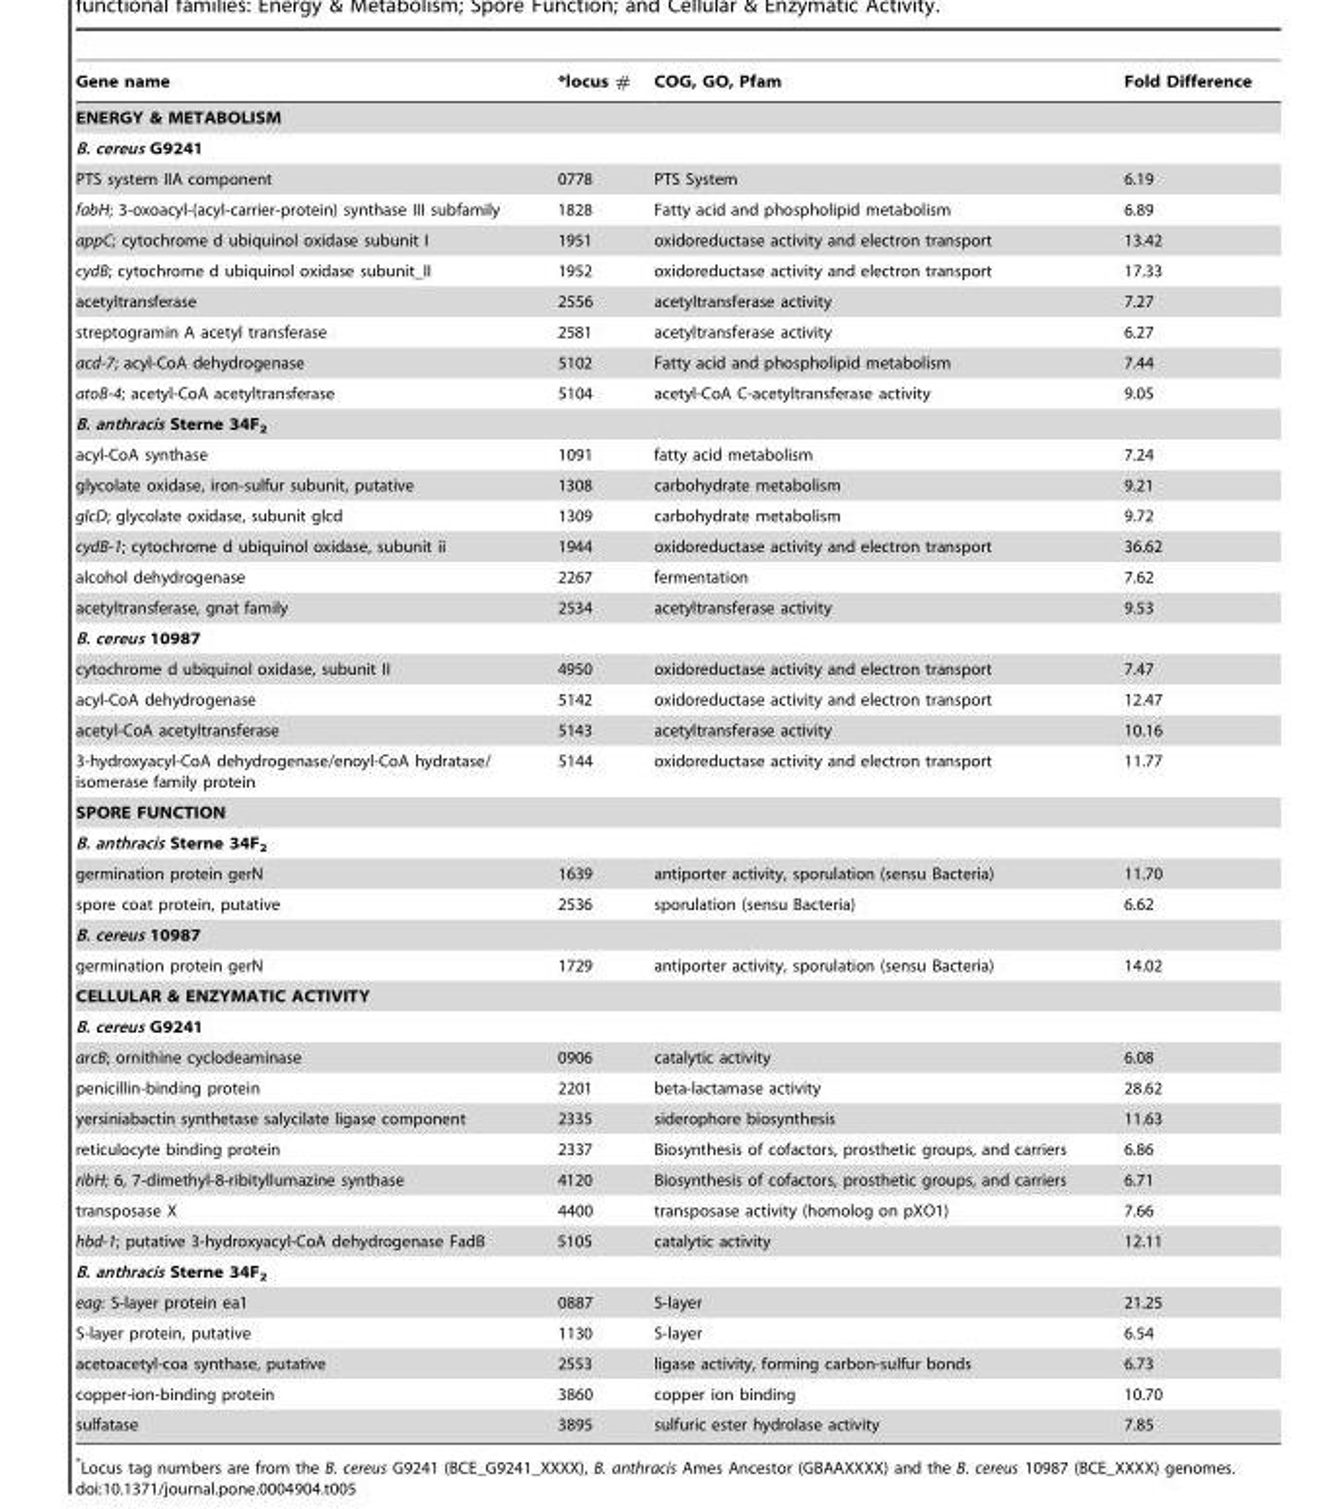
<table><thead><tr><td>Gene name</td><td>*locus #</td><td>COG, GO, Pfam</td><td>Fold Difference</td></tr></thead><tbody><tr><td colspan="4">ENERGY &amp; METABOLISM</td></tr><tr><td colspan="4">B. cereus G9241</td></tr><tr><td>PTS system IIA component</td><td>0778</td><td>PTS System</td><td>6.19</td></tr><tr><td>fabH; 3-oxoacyl-(acyl-carrier-protein) synthase III subfamily</td><td>1828</td><td>Fatty acid and phospholipid metabolism</td><td>6.89</td></tr><tr><td>appC; cytochrome d ubiquinol oxidase subunit I</td><td>1951</td><td>oxidoreductase activity and electron transport</td><td>13.42</td></tr><tr><td>cydB; cytochrome d ubiquinol oxidase subunit_II</td><td>1952</td><td>oxidoreductase activity and electron transport</td><td>17.33</td></tr><tr><td>acetyltransferase</td><td>2556</td><td>acetyltransferase activity</td><td>7.27</td></tr><tr><td>streptogramin A acetyl transferase</td><td>2581</td><td>acetyltransferase activity</td><td>6.27</td></tr><tr><td>acd-7; acyl-CoA dehydrogenase</td><td>5102</td><td>Fatty acid and phospholipid metabolism</td><td>7.44</td></tr><tr><td>atoB-4; acetyl-CoA acetyltransferase</td><td>5104</td><td>acetyl-CoA C-acetyltransferase activity</td><td>9.05</td></tr><tr><td colspan="4">B. anthracis Sterne 34F<sub>2</sub></td></tr><tr><td>acyl-CoA synthase</td><td>1091</td><td>fatty acid metabolism</td><td>7.24</td></tr><tr><td>glycolate oxidase, iron-sulfur subunit, putative</td><td>1308</td><td>carbohydrate metabolism</td><td>9.21</td></tr><tr><td>glcD; glycolate oxidase, subunit glcd</td><td>1309</td><td>carbohydrate metabolism</td><td>9.72</td></tr><tr><td>cydB-1; cytochrome d ubiquinol oxidase, subunit ii</td><td>1944</td><td>oxidoreductase activity and electron transport</td><td>36.62</td></tr><tr><td>alcohol dehydrogenase</td><td>2267</td><td>fermentation</td><td>7.62</td></tr><tr><td>acetyltransferase, gnat family</td><td>2534</td><td>acetyltransferase activity</td><td>9.53</td></tr><tr><td colspan="4">B. cereus 10987</td></tr><tr><td>cytochrome d ubiquinol oxidase, subunit II</td><td>4950</td><td>oxidoreductase activity and electron transport</td><td>7.47</td></tr><tr><td>acyl-CoA dehydrogenase</td><td>5142</td><td>oxidoreductase activity and electron transport</td><td>12.47</td></tr><tr><td>acetyl-CoA acetyltransferase</td><td>5143</td><td>acetyltransferase activity</td><td>10.16</td></tr><tr><td>3-hydroxyacyl-CoA dehydrogenase/enoyl-CoA hydratase/ isomerase family protein</td><td>5144</td><td>oxidoreductase activity and electron transport</td><td>11.77</td></tr><tr><td colspan="4">SPORE FUNCTION</td></tr><tr><td colspan="4">B. anthracis Sterne 34F<sub>2</sub></td></tr><tr><td>germination protein gerN</td><td>1639</td><td>antiporter activity, sporulation (sensu Bacteria)</td><td>11.70</td></tr><tr><td>spore coat protein, putative</td><td>2536</td><td>sporulation (sensu Bacteria)</td><td>6.62</td></tr><tr><td colspan="4">B. cereus 10987</td></tr><tr><td>germination protein gerN</td><td>1729</td><td>antiporter activity, sporulation (sensu Bacteria)</td><td>14.02</td></tr><tr><td colspan="4">CELLULAR &amp; ENZYMATIC ACTIVITY</td></tr><tr><td colspan="4">B. cereus G9241</td></tr><tr><td>arcB; ornithine cyclodeaminase</td><td>0906</td><td>catalytic activity</td><td>6.08</td></tr><tr><td>penicillin-binding protein</td><td>2201</td><td>beta-lactamase activity</td><td>28.62</td></tr><tr><td>yersiniabactin synthetase salycilate ligase component</td><td>2335</td><td>siderophore biosynthesis</td><td>11.63</td></tr><tr><td>reticulocyte binding protein</td><td>2337</td><td>Biosynthesis of cofactors, prosthetic groups, and carriers</td><td>6.86</td></tr><tr><td>ribH; 6, 7-dimethyl-8-ribityllumazine synthase</td><td>4120</td><td>Biosynthesis of cofactors, prosthetic groups, and carriers</td><td>6.71</td></tr><tr><td>transposase X</td><td>4400</td><td>transposase activity (homolog on pXO1)</td><td>7.66</td></tr><tr><td>hbd-1; putative 3-hydroxyacyl-CoA dehydrogenase FadB</td><td>5105</td><td>catalytic activity</td><td>12.11</td></tr><tr><td colspan="4">B. anthracis Sterne 34F<sub>2</sub></td></tr><tr><td>eag: S-layer protein ea1</td><td>0887</td><td>S-layer</td><td>21.25</td></tr><tr><td>S-layer protein, putative</td><td>1130</td><td>S-layer</td><td>6.54</td></tr><tr><td>acetoacetyl-coa synthase, putative</td><td>2553</td><td>ligase activity, forming carbon-sulfur bonds</td><td>6.73</td></tr><tr><td>copper-ion-binding protein</td><td>3860</td><td>copper ion binding</td><td>10.70</td></tr><tr><td>sulfatase</td><td>3895</td><td>sulfuric ester hydrolase activity</td><td>7.85</td></tr></tbody></table>